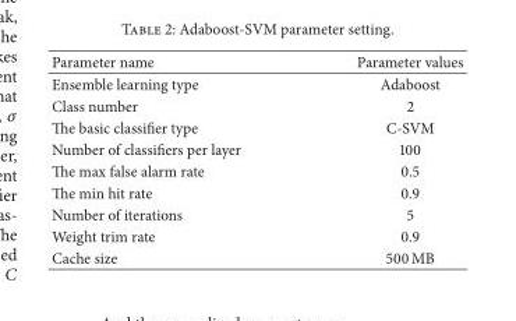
<table><thead><tr><td>Parameter name</td><td>Parameter values</td></tr></thead><tbody><tr><td>Ensemble learning type</td><td>Adaboost</td></tr><tr><td>Class number</td><td>2</td></tr><tr><td>The basic classifier type</td><td>C-SVM</td></tr><tr><td>Number of classifiers per layer</td><td>100</td></tr><tr><td>The max false alarm rate</td><td>0.5</td></tr><tr><td>The min hit rate</td><td>0.9</td></tr><tr><td>Number of iterations</td><td>5</td></tr><tr><td>Weight trim rate</td><td>0.9</td></tr><tr><td>Cache size</td><td>500 MB</td></tr></tbody></table>